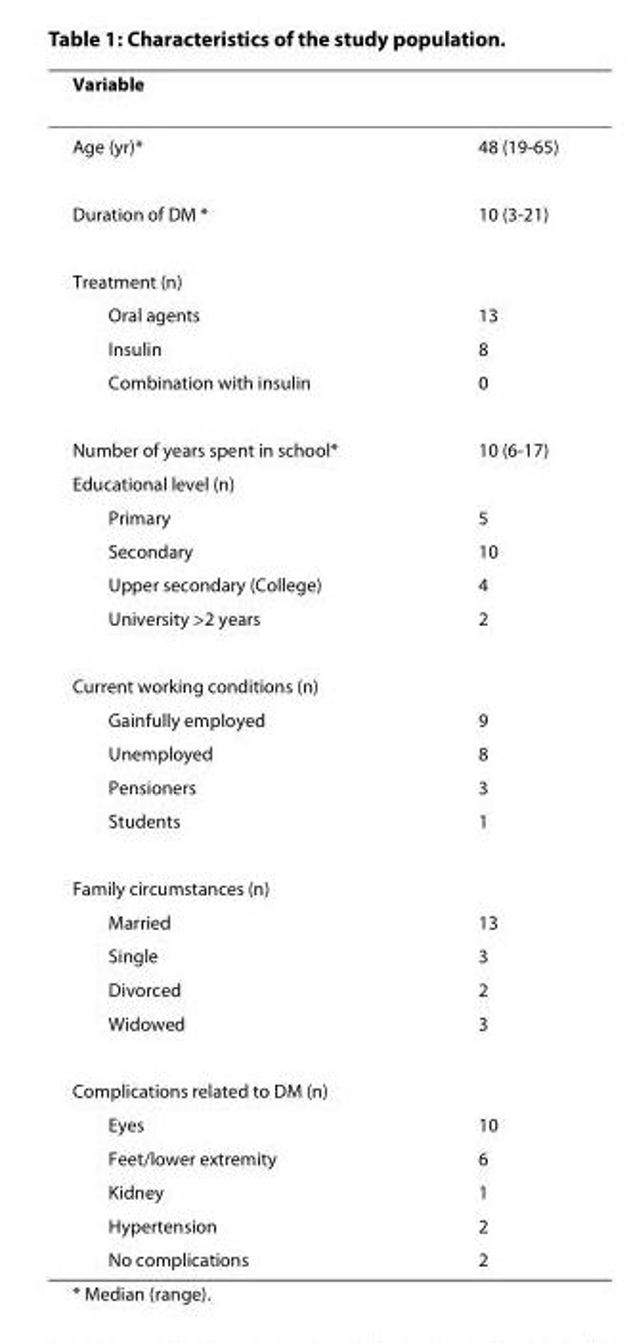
<table><thead><tr><td>Variable</td><td></td></tr></thead><tbody><tr><td>Age (yr)*</td><td>48 (19-65)</td></tr><tr><td>Duration of DM *</td><td>10 (3-21)</td></tr><tr><td colspan="2">Treatment (n)</td></tr><tr><td>Oral agents</td><td>13</td></tr><tr><td>Insulin</td><td>8</td></tr><tr><td>Combination with insulin</td><td>0</td></tr><tr><td>Number of years spent in school*</td><td>10 (6-17)</td></tr><tr><td colspan="2">Educational level (n)</td></tr><tr><td>Primary</td><td>5</td></tr><tr><td>Secondary</td><td>10</td></tr><tr><td>Upper secondary (College)</td><td>4</td></tr><tr><td>University &gt;2 years</td><td>2</td></tr><tr><td colspan="2">Current working conditions (n)</td></tr><tr><td>Gainfully employed</td><td>9</td></tr><tr><td>Unemployed</td><td>8</td></tr><tr><td>Pensioners</td><td>3</td></tr><tr><td>Students</td><td>1</td></tr><tr><td colspan="2">Family circumstances (n)</td></tr><tr><td>Married</td><td>13</td></tr><tr><td>Single</td><td>3</td></tr><tr><td>Divorced</td><td>2</td></tr><tr><td>Widowed</td><td>3</td></tr><tr><td colspan="2">Complications related to DM (n)</td></tr><tr><td>Eyes</td><td>10</td></tr><tr><td>Feet/lower extremity</td><td>6</td></tr><tr><td>Kidney</td><td>1</td></tr><tr><td>Hypertension</td><td>2</td></tr><tr><td>No complications</td><td>2</td></tr></tbody></table>